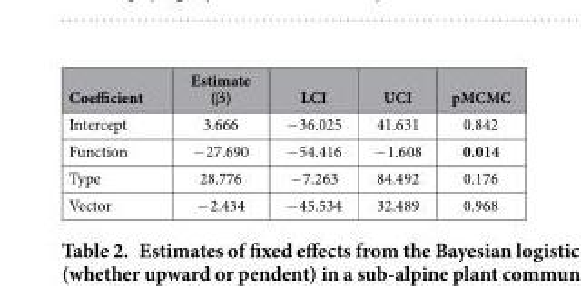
<table><thead><tr><td>Coefficient</td><td>Estimate (β)</td><td>LCI</td><td>UCI</td><td>pMCMC</td></tr></thead><tbody><tr><td>Intercept</td><td>3.666</td><td>− 36.025</td><td>41.631</td><td>0.842</td></tr><tr><td>Function</td><td>− 27.690</td><td>− 54.416</td><td>− 1.608</td><td>0.014</td></tr><tr><td>Type</td><td>28.776</td><td>− 7.263</td><td>84.492</td><td>0.176</td></tr><tr><td>Vector</td><td>− 2.434</td><td>− 45.534</td><td>32.489</td><td>0.968</td></tr></tbody></table>